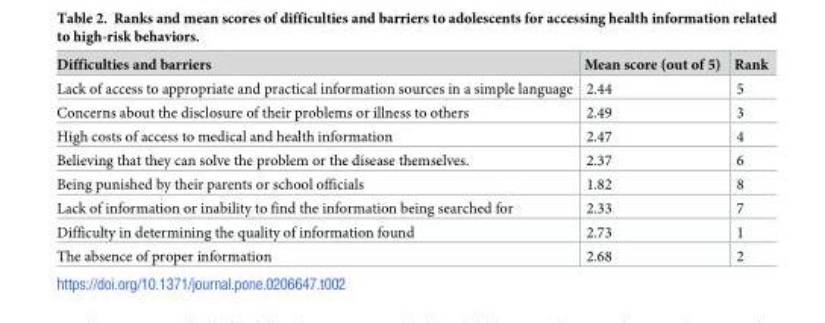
<table><thead><tr><td>Difficulties and barriers</td><td>Mean score (out of 5)</td><td>Rank</td></tr></thead><tbody><tr><td>Lack of access to appropriate and practical information sources in a simple language</td><td>2.44</td><td>5</td></tr><tr><td>Concerns about the disclosure of their problems or illness to others</td><td>2.49</td><td>3</td></tr><tr><td>High costs of access to medical and health information</td><td>2.47</td><td>4</td></tr><tr><td>Believing that they can solve the problem or the disease themselves.</td><td>2.37</td><td>6</td></tr><tr><td>Being punished by their parents or school officials</td><td>1.82</td><td>8</td></tr><tr><td>Lack of information or inability to find the information being searched for</td><td>2.33</td><td>7</td></tr><tr><td>Difficulty in determining the quality of information found</td><td>2.73</td><td>1</td></tr><tr><td>The absence of proper information</td><td>2.68</td><td>2</td></tr></tbody></table>